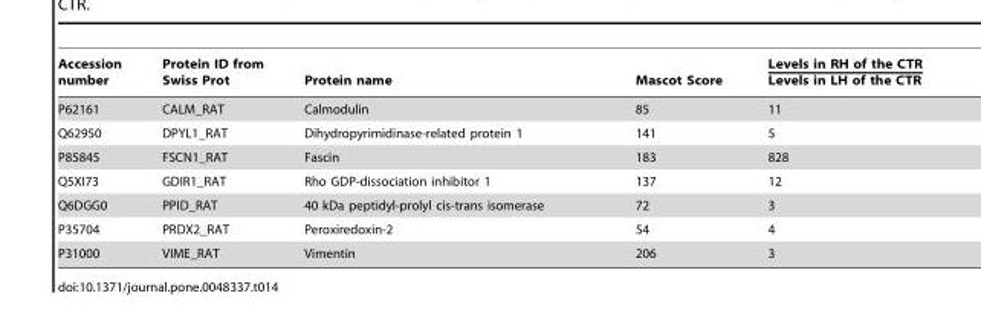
<table><thead><tr><td>Accession number</td><td>Protein ID from Swiss Prot</td><td>Protein name</td><td>Mascot Score</td><td>Levels in RH of the CTR Levels in LH of the CTR</td></tr></thead><tbody><tr><td>P62161</td><td>CALM_RAT</td><td>Calmodulin</td><td>85</td><td>11</td></tr><tr><td>Q62950</td><td>DPYL1_RAT</td><td>Dihydropyrimidinase-related protein 1</td><td>141</td><td>5</td></tr><tr><td>P85845</td><td>FSCN1_RAT</td><td>Fascin</td><td>183</td><td>828</td></tr><tr><td>Q5XI73</td><td>GDIR1_RAT</td><td>Rho GDP-dissociation inhibitor 1</td><td>137</td><td>12</td></tr><tr><td>Q6DGG0</td><td>PPID_RAT</td><td>40 kDa peptidyl-prolyl cis-trans isomerase</td><td>72</td><td>3</td></tr><tr><td>P35704</td><td>PRDX2_RAT</td><td>Peroxiredoxin-2</td><td>54</td><td>4</td></tr><tr><td>P31000</td><td>VIME_RAT</td><td>Vimentin</td><td>206</td><td>3</td></tr></tbody></table>